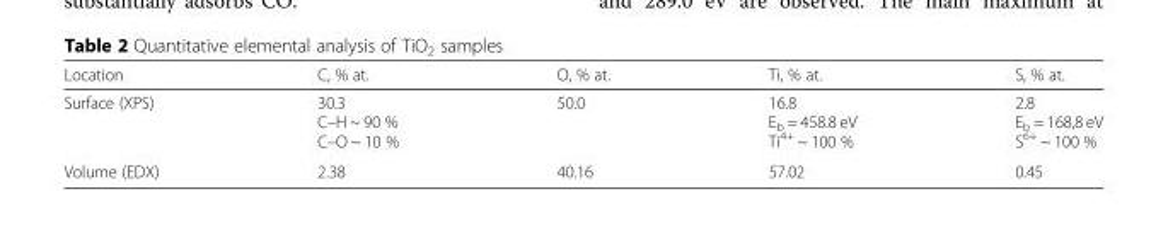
<table><thead><tr><td>Location</td><td>C, % at.</td><td>O, % at.</td><td>Ti, % at.</td><td>S, % at.</td></tr></thead><tbody><tr><td>Surface (XPS)</td><td>30.3 C–H ~ 90 % C–O ~ 10 %</td><td>50.0</td><td>16.8 Е<sub>b</sub> = 458.8 еV Ti<sup>4+</sup> ~ 100 %</td><td>2.8 Е<sub>b</sub> = 168,8 еV S<sup>6+</sup> ~ 100 %</td></tr><tr><td>Volume (EDX)</td><td>2.38</td><td>40.16</td><td>57.02</td><td>0.45</td></tr></tbody></table>